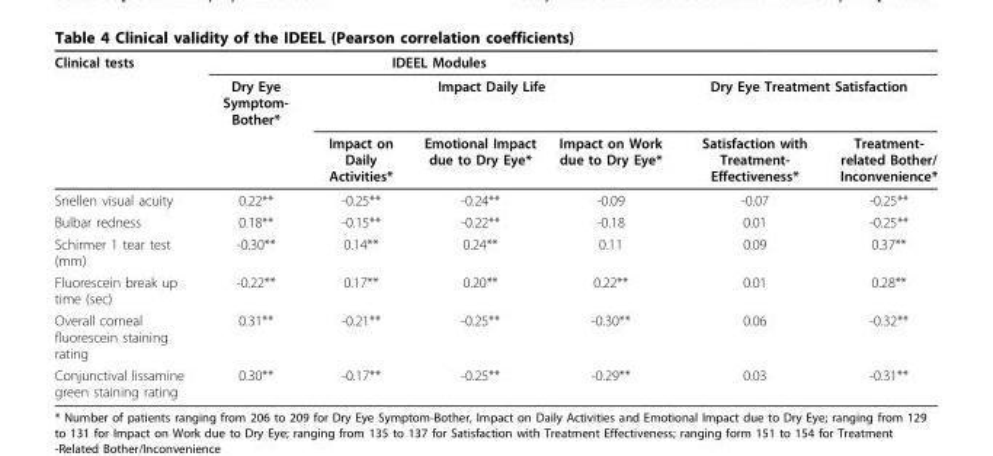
<table><thead><tr><td rowspan="3">Clinical tests</td><td colspan="4">IDEEL Modules</td><td></td><td></td></tr><tr><td rowspan="2">Dry Eye Symptom- Bother*</td><td colspan="3">Impact Daily Life</td><td colspan="2">Dry Eye Treatment Satisfaction</td></tr><tr><td>Impact on Daily Activities*</td><td>Emotional Impact due to Dry Eye*</td><td>Impact on Work due to Dry Eye*</td><td>Satisfaction with Treatment- Effectiveness*</td><td>Treatment- related Bother/ Inconvenience*</td></tr></thead><tbody><tr><td>Snellen visual acuity</td><td>0.22**</td><td>-0.25**</td><td>-0.24**</td><td>-0.09</td><td>-0.07</td><td>-0.25**</td></tr><tr><td>Bulbar redness</td><td>0.18**</td><td>-0.15**</td><td>-0.22**</td><td>-0.18</td><td>0.01</td><td>-0.25**</td></tr><tr><td>Schirmer 1 tear test (mm)</td><td>-0.30**</td><td>0.14**</td><td>0.24**</td><td>0.11</td><td>0.09</td><td>0.37**</td></tr><tr><td>Fluorescein break up time (sec)</td><td>-0.22**</td><td>0.17**</td><td>0.20**</td><td>0.22**</td><td>0.01</td><td>0.28**</td></tr><tr><td>Overall corneal fluorescein staining rating</td><td>0.31**</td><td>-0.21**</td><td>-0.25**</td><td>-0.30**</td><td>0.06</td><td>-0.32**</td></tr><tr><td>Conjunctival lissamine green staining rating</td><td>0.30**</td><td>-0.17**</td><td>-0.25**</td><td>-0.29**</td><td>0.03</td><td>-0.31**</td></tr></tbody></table>